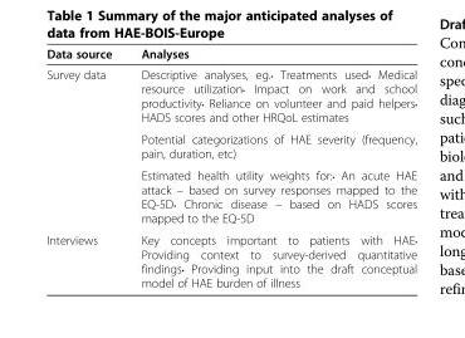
<table><thead><tr><td>Data source</td><td>Analyses</td></tr></thead><tbody><tr><td rowspan="3">Survey data</td><td>Descriptive analyses, eg.• Treatments used• Medical resource utilization• Impact on work and school productivity• Reliance on volunteer and paid helpers• HADS scores and other HRQoL estimates</td></tr><tr><td>Potential categorizations of HAE severity (frequency, pain, duration, etc)</td></tr><tr><td>Estimated health utility weights for:• An acute HAE attack – based on survey responses mapped to the EQ-5D• Chronic disease – based on HADS scores mapped to the EQ-5D</td></tr><tr><td>Interviews</td><td>Key concepts important to patients with HAE• Providing context to survey-derived quantitative findings• Providing input into the draft conceptual model of HAE burden of illness</td></tr></tbody></table>